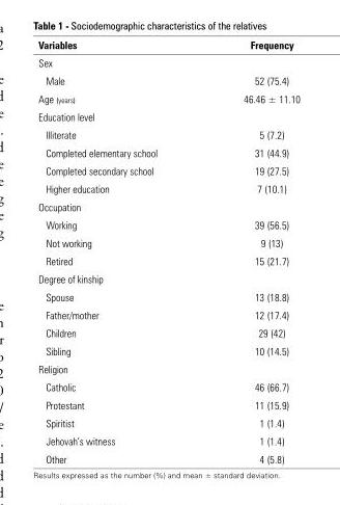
<table><thead><tr><td>Variables</td><td>Frequency</td></tr></thead><tbody><tr><td colspan="2">Sex</td></tr><tr><td>Male</td><td>52 (75.4)</td></tr><tr><td>Age (years)</td><td>46.46 ± 11.10</td></tr><tr><td colspan="2">Education level</td></tr><tr><td>Illiterate</td><td>5 (7.2)</td></tr><tr><td>Completed elementary school</td><td>31 (44.9)</td></tr><tr><td>Completed secondary school</td><td>19 (27.5)</td></tr><tr><td>Higher education</td><td>7 (10.1)</td></tr><tr><td colspan="2">Occupation</td></tr><tr><td>Working</td><td>39 (56.5)</td></tr><tr><td>Not working</td><td>9 (13)</td></tr><tr><td>Retired</td><td>15 (21.7)</td></tr><tr><td colspan="2">Degree of kinship</td></tr><tr><td>Spouse</td><td>13 (18.8)</td></tr><tr><td>Father/mother</td><td>12 (17.4)</td></tr><tr><td>Children</td><td>29 (42)</td></tr><tr><td>Sibling</td><td>10 (14.5)</td></tr><tr><td colspan="2">Religion</td></tr><tr><td>Catholic</td><td>46 (66.7)</td></tr><tr><td>Protestant</td><td>11 (15.9)</td></tr><tr><td>Spiritist</td><td>1 (1.4)</td></tr><tr><td>Jehovah’s witness</td><td>1 (1.4)</td></tr><tr><td>Other</td><td>4 (5.8)</td></tr></tbody></table>